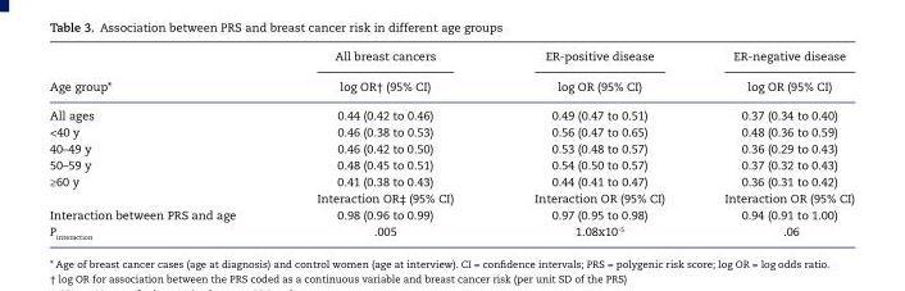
<table><thead><tr><td rowspan="2">Age group*</td><td rowspan="2">All breast cancers log OR† (95% CI)</td><td rowspan="2">ER-positive disease log OR (95% CI)</td><td rowspan="2">ER-negative disease log OR (95% CI)</td></tr><tr></tr></thead><tbody><tr><td>All ages</td><td>0.44 (0.42 to 0.46)</td><td>0.49 (0.47 to 0.51)</td><td>0.37 (0.34 to 0.40)</td></tr><tr><td>&lt;40 y</td><td>0.46 (0.38 to 0.53)</td><td>0.56 (0.47 to 0.65)</td><td>0.48 (0.36 to 0.59)</td></tr><tr><td>40–49 y</td><td>0.46 (0.42 to 0.50)</td><td>0.53 (0.48 to 0.57)</td><td>0.36 (0.29 to 0.43)</td></tr><tr><td>50–59 y</td><td>0.48 (0.45 to 0.51)</td><td>0.54 (0.50 to 0.57)</td><td>0.37 (0.32 to 0.43)</td></tr><tr><td rowspan="2">≥60 y</td><td>0.41 (0.38 to 0.43)</td><td>0.44 (0.41 to 0.47)</td><td>0.36 (0.31 to 0.42)</td></tr><tr><td>Interaction OR‡ (95% CI)</td><td>Interaction OR (95% CI)</td><td>Interaction OR (95% CI)</td></tr><tr><td>Interaction between PRS and age</td><td>0.98 (0.96 to 0.99)</td><td>0.97 (0.95 to 0.98)</td><td>0.94 (0.91 to 1.00)</td></tr><tr><td>P<sub>interaction</sub></td><td>.005</td><td>1.08x10<sup>-5</sup></td><td>.06</td></tr></tbody></table>